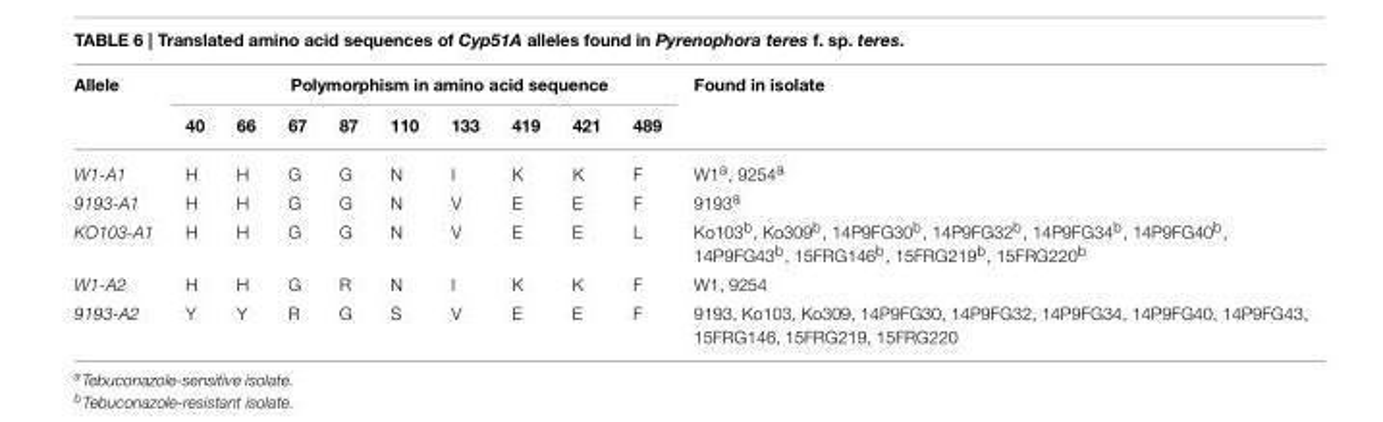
<table><thead><tr><td rowspan="2">Allele</td><td rowspan="2">40</td><td colspan="8">Polymorphism in amino acid sequence</td><td rowspan="2">Found in isolate</td></tr><tr><td>66</td><td>67</td><td>87</td><td>110</td><td>133</td><td>419</td><td>421</td><td>489</td></tr></thead><tbody><tr><td>W1-A1</td><td>H</td><td>H</td><td>G</td><td>G</td><td>N</td><td>I</td><td>K</td><td>K</td><td>F</td><td>W1<sup>a</sup>, 9254<sup>a</sup></td></tr><tr><td>9193-A1</td><td>H</td><td>H</td><td>G</td><td>G</td><td>N</td><td>V</td><td>E</td><td>E</td><td>F</td><td>9193<sup>a</sup></td></tr><tr><td>KO103-A1</td><td>H</td><td>H</td><td>G</td><td>G</td><td>N</td><td>V</td><td>E</td><td>E</td><td>L</td><td>Ko103<sup>b</sup>, Ko309<sup>b</sup>, 14P9FG30<sup>b</sup>, 14P9FG32<sup>b</sup>, 14P9FG34<sup>b</sup>, 14P9FG40<sup>b</sup>, 14P9FG43<sup>b</sup>, 15FRG146<sup>b</sup>, 15FRG219<sup>b</sup>, 15FRG220<sup>b</sup></td></tr><tr><td>W1-A2</td><td>H</td><td>H</td><td>G</td><td>R</td><td>N</td><td>I</td><td>K</td><td>K</td><td>F</td><td>W1, 9254</td></tr><tr><td>9193-A2</td><td>Y</td><td>Y</td><td>R</td><td>G</td><td>S</td><td>V</td><td>E</td><td>E</td><td>F</td><td>9193, Ko103, Ko309, 14P9FG30, 14P9FG32, 14P9FG34, 14P9FG40, 14P9FG43, 15FRG146, 15FRG219, 15FRG220</td></tr></tbody></table>